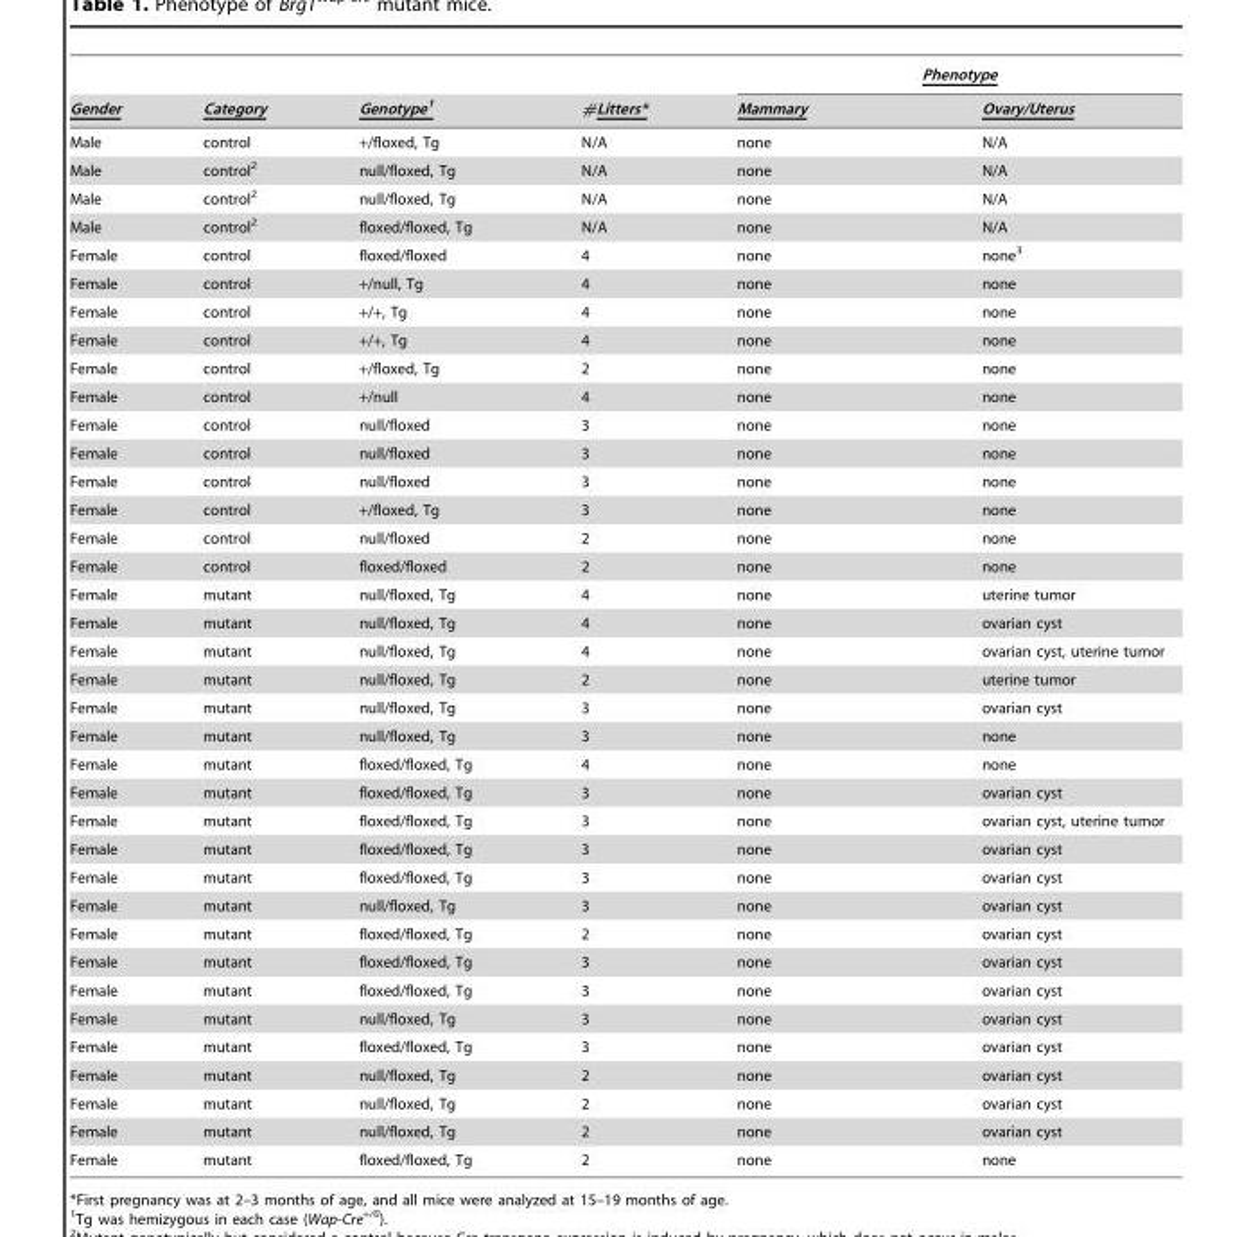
<table><thead><tr><td rowspan="2">Gender</td><td rowspan="2">Category</td><td rowspan="2">Genotype1</td><td rowspan="2">#Litters*</td><td colspan="2">Phenotype</td></tr><tr><td>Mammary</td><td>Ovary/Uterus</td></tr></thead><tbody><tr><td>Male</td><td>control</td><td>+/floxed, Tg</td><td>N/A</td><td>none</td><td>N/A</td></tr><tr><td>Male</td><td>control<sup>2</sup></td><td>null/floxed, Tg</td><td>N/A</td><td>none</td><td>N/A</td></tr><tr><td>Male</td><td>control<sup>2</sup></td><td>null/floxed, Tg</td><td>N/A</td><td>none</td><td>N/A</td></tr><tr><td>Male</td><td>control<sup>2</sup></td><td>floxed/floxed, Tg</td><td>N/A</td><td>none</td><td>N/A</td></tr><tr><td>Female</td><td>control</td><td>floxed/floxed</td><td>4</td><td>none</td><td>none<sup>3</sup></td></tr><tr><td>Female</td><td>control</td><td>+/null, Tg</td><td>4</td><td>none</td><td>none</td></tr><tr><td>Female</td><td>control</td><td>+/+, Tg</td><td>4</td><td>none</td><td>none</td></tr><tr><td>Female</td><td>control</td><td>+/+, Tg</td><td>4</td><td>none</td><td>none</td></tr><tr><td>Female</td><td>control</td><td>+/floxed, Tg</td><td>2</td><td>none</td><td>none</td></tr><tr><td>Female</td><td>control</td><td>+/null</td><td>4</td><td>none</td><td>none</td></tr><tr><td>Female</td><td>control</td><td>null/floxed</td><td>3</td><td>none</td><td>none</td></tr><tr><td>Female</td><td>control</td><td>null/floxed</td><td>3</td><td>none</td><td>none</td></tr><tr><td>Female</td><td>control</td><td>null/floxed</td><td>3</td><td>none</td><td>none</td></tr><tr><td>Female</td><td>control</td><td>+/floxed, Tg</td><td>3</td><td>none</td><td>none</td></tr><tr><td>Female</td><td>control</td><td>null/floxed</td><td>2</td><td>none</td><td>none</td></tr><tr><td>Female</td><td>control</td><td>floxed/floxed</td><td>2</td><td>none</td><td>none</td></tr><tr><td>Female</td><td>mutant</td><td>null/floxed, Tg</td><td>4</td><td>none</td><td>uterine tumor</td></tr><tr><td>Female</td><td>mutant</td><td>null/floxed, Tg</td><td>4</td><td>none</td><td>ovarian cyst</td></tr><tr><td>Female</td><td>mutant</td><td>null/floxed, Tg</td><td>4</td><td>none</td><td>ovarian cyst, uterine tumor</td></tr><tr><td>Female</td><td>mutant</td><td>null/floxed, Tg</td><td>2</td><td>none</td><td>uterine tumor</td></tr><tr><td>Female</td><td>mutant</td><td>null/floxed, Tg</td><td>3</td><td>none</td><td>ovarian cyst</td></tr><tr><td>Female</td><td>mutant</td><td>null/floxed, Tg</td><td>3</td><td>none</td><td>none</td></tr><tr><td>Female</td><td>mutant</td><td>floxed/floxed, Tg</td><td>4</td><td>none</td><td>none</td></tr><tr><td>Female</td><td>mutant</td><td>floxed/floxed, Tg</td><td>3</td><td>none</td><td>ovarian cyst</td></tr><tr><td>Female</td><td>mutant</td><td>floxed/floxed, Tg</td><td>3</td><td>none</td><td>ovarian cyst, uterine tumor</td></tr><tr><td>Female</td><td>mutant</td><td>floxed/floxed, Tg</td><td>3</td><td>none</td><td>ovarian cyst</td></tr><tr><td>Female</td><td>mutant</td><td>floxed/floxed, Tg</td><td>3</td><td>none</td><td>ovarian cyst</td></tr><tr><td>Female</td><td>mutant</td><td>null/floxed, Tg</td><td>3</td><td>none</td><td>ovarian cyst</td></tr><tr><td>Female</td><td>mutant</td><td>floxed/floxed, Tg</td><td>2</td><td>none</td><td>ovarian cyst</td></tr><tr><td>Female</td><td>mutant</td><td>floxed/floxed, Tg</td><td>3</td><td>none</td><td>ovarian cyst</td></tr><tr><td>Female</td><td>mutant</td><td>floxed/floxed, Tg</td><td>3</td><td>none</td><td>ovarian cyst</td></tr><tr><td>Female</td><td>mutant</td><td>null/floxed, Tg</td><td>3</td><td>none</td><td>ovarian cyst</td></tr><tr><td>Female</td><td>mutant</td><td>floxed/floxed, Tg</td><td>3</td><td>none</td><td>ovarian cyst</td></tr><tr><td>Female</td><td>mutant</td><td>null/floxed, Tg</td><td>2</td><td>none</td><td>ovarian cyst</td></tr><tr><td>Female</td><td>mutant</td><td>null/floxed, Tg</td><td>2</td><td>none</td><td>ovarian cyst</td></tr><tr><td>Female</td><td>mutant</td><td>null/floxed, Tg</td><td>2</td><td>none</td><td>ovarian cyst</td></tr><tr><td>Female</td><td>mutant</td><td>floxed/floxed, Tg</td><td>2</td><td>none</td><td>none</td></tr></tbody></table>